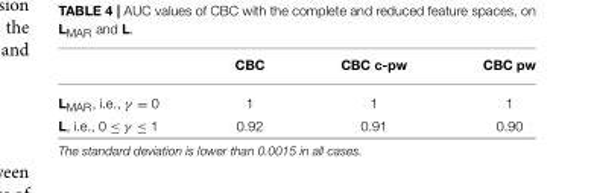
<table><thead><tr><td></td><td>CBC</td><td>CBC c-pw</td><td>CBC pw</td></tr></thead><tbody><tr><td>L<sub>MAR</sub>, i.e., γ = 0</td><td>1</td><td>1</td><td>1</td></tr><tr><td>L, i.e., 0 ≤ γ ≤ 1</td><td>0.92</td><td>0.91</td><td>0.90</td></tr></tbody></table>